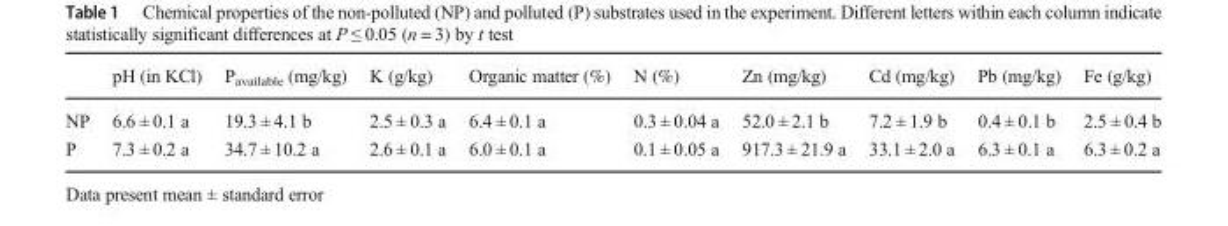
<table><thead><tr><td></td><td>pH (in KCl)</td><td>P<sub>available</sub> (mg/kg)</td><td>K (g/kg)</td><td>Organic matter (%)</td><td>N (%)</td><td>Zn (mg/kg)</td><td>Cd (mg/kg)</td><td>Pb (mg/kg)</td><td>Fe (g/kg)</td></tr></thead><tbody><tr><td>NP</td><td>6.6 ± 0.1 a</td><td>19.3 ± 4.1 b</td><td>2.5 ± 0.3 a</td><td>6.4 ± 0.1 a</td><td>0.3 ± 0.04 a</td><td>52.0 ± 2.1 b</td><td>7.2 ± 1.9 b</td><td>0.4 ± 0.1 b</td><td>2.5 ± 0.4 b</td></tr><tr><td>P</td><td>7.3 ± 0.2 a</td><td>34.7 ± 10.2 a</td><td>2.6 ± 0.1 a</td><td>6.0 ± 0.1 a</td><td>0.1 ± 0.05 a</td><td>917.3 ± 21.9 a</td><td>33.1 ± 2.0 a</td><td>6.3 ± 0.1 a</td><td>6.3 ± 0.2 a</td></tr></tbody></table>